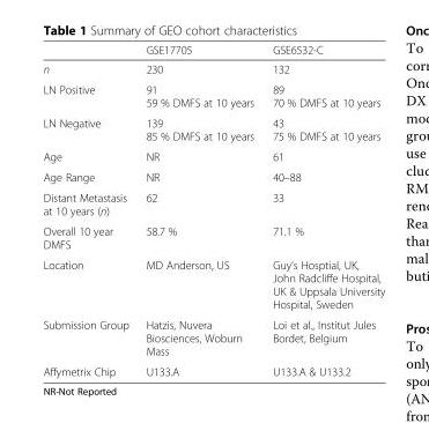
<table><thead><tr><td></td><td>GSE17705</td><td>GSE6532-C</td></tr></thead><tbody><tr><td>n</td><td>230</td><td>132</td></tr><tr><td>LN Positive</td><td>91 59 % DMFS at 10 years</td><td>89 70 % DMFS at 10 years</td></tr><tr><td>LN Negative</td><td>139 85 % DMFS at 10 years</td><td>43 75 % DMFS at 10 years</td></tr><tr><td>Age</td><td>NR</td><td>61</td></tr><tr><td>Age Range</td><td>NR</td><td>40–88</td></tr><tr><td>Distant Metastasis at 10 years (n)</td><td>62</td><td>33</td></tr><tr><td>Overall 10 year DMFS</td><td>58.7 %</td><td>71.1 %</td></tr><tr><td>Location</td><td>MD Anderson, US</td><td>Guy’s Hosptial, UK, John Radcliffe Hospital, UK &amp; Uppsala University Hospital, Sweden</td></tr><tr><td>Submission Group</td><td>Hatzis, Nuvera Biosciences, Woburn Mass</td><td>Loi et al., Institut Jules Bordet, Belgium</td></tr><tr><td>Affymetrix Chip</td><td>U133.A</td><td>U133.A &amp; U133.2</td></tr></tbody></table>